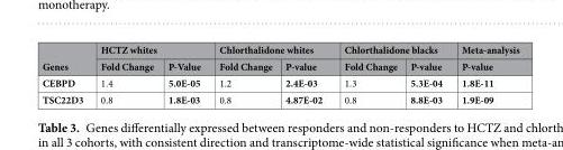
<table><thead><tr><td rowspan="2">Genes</td><td colspan="2">HCTZ whites</td><td colspan="2">Chlorthalidone whites</td><td colspan="2">Chlorthalidone blacks</td><td rowspan="2">Meta-analysis P-value</td></tr><tr><td>Fold Change</td><td>P-Value</td><td>Fold Change</td><td>P-value</td><td>Fold Change</td><td>P-value</td></tr></thead><tbody><tr><td>CEBPD</td><td>1.4</td><td>5.0E-05</td><td>1.2</td><td>2.4E-03</td><td>1.3</td><td>5.3E-04</td><td>1.8E-11</td></tr><tr><td>TSC22D3</td><td>0.8</td><td>1.8E-03</td><td>0.8</td><td>4.87E-02</td><td>0.8</td><td>8.8E-03</td><td>1.9E-09</td></tr></tbody></table>